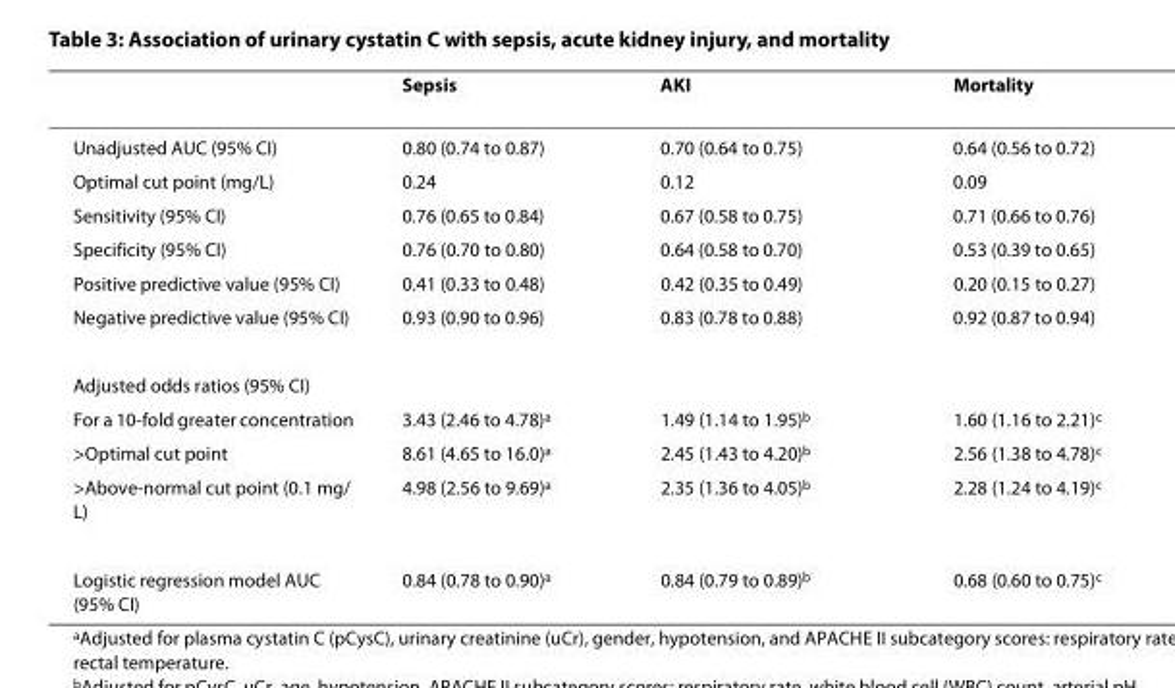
<table><thead><tr><td></td><td>Sepsis</td><td>AKI</td><td>Mortality</td></tr></thead><tbody><tr><td>Unadjusted AUC (95% CI)</td><td>0.80 (0.74 to 0.87)</td><td>0.70 (0.64 to 0.75)</td><td>0.64 (0.56 to 0.72)</td></tr><tr><td>Optimal cut point (mg/L)</td><td>0.24</td><td>0.12</td><td>0.09</td></tr><tr><td>Sensitivity (95% CI)</td><td>0.76 (0.65 to 0.84)</td><td>0.67 (0.58 to 0.75)</td><td>0.71 (0.66 to 0.76)</td></tr><tr><td>Specificity (95% CI)</td><td>0.76 (0.70 to 0.80)</td><td>0.64 (0.58 to 0.70)</td><td>0.53 (0.39 to 0.65)</td></tr><tr><td>Positive predictive value (95% CI)</td><td>0.41 (0.33 to 0.48)</td><td>0.42 (0.35 to 0.49)</td><td>0.20 (0.15 to 0.27)</td></tr><tr><td>Negative predictive value (95% CI)</td><td>0.93 (0.90 to 0.96)</td><td>0.83 (0.78 to 0.88)</td><td>0.92 (0.87 to 0.94)</td></tr><tr><td colspan="4">Adjusted odds ratios (95% CI)</td></tr><tr><td>For a 10-fold greater concentration</td><td>3.43 (2.46 to 4.78)<sup>a</sup></td><td>1.49 (1.14 to 1.95)<sup>b</sup></td><td>1.60 (1.16 to 2.21)<sup>c</sup></td></tr><tr><td>&gt;Optimal cut point</td><td>8.61 (4.65 to 16.0)<sup>a</sup></td><td>2.45 (1.43 to 4.20)<sup>b</sup></td><td>2.56 (1.38 to 4.78)<sup>c</sup></td></tr><tr><td>&gt;Above-normal cut point (0.1 mg/ L)</td><td>4.98 (2.56 to 9.69)<sup>a</sup></td><td>2.35 (1.36 to 4.05)<sup>b</sup></td><td>2.28 (1.24 to 4.19)<sup>c</sup></td></tr><tr><td>Logistic regression model AUC (95% CI)</td><td>0.84 (0.78 to 0.90)<sup>a</sup></td><td>0.84 (0.79 to 0.89)<sup>b</sup></td><td>0.68 (0.60 to 0.75)<sup>c</sup></td></tr></tbody></table>